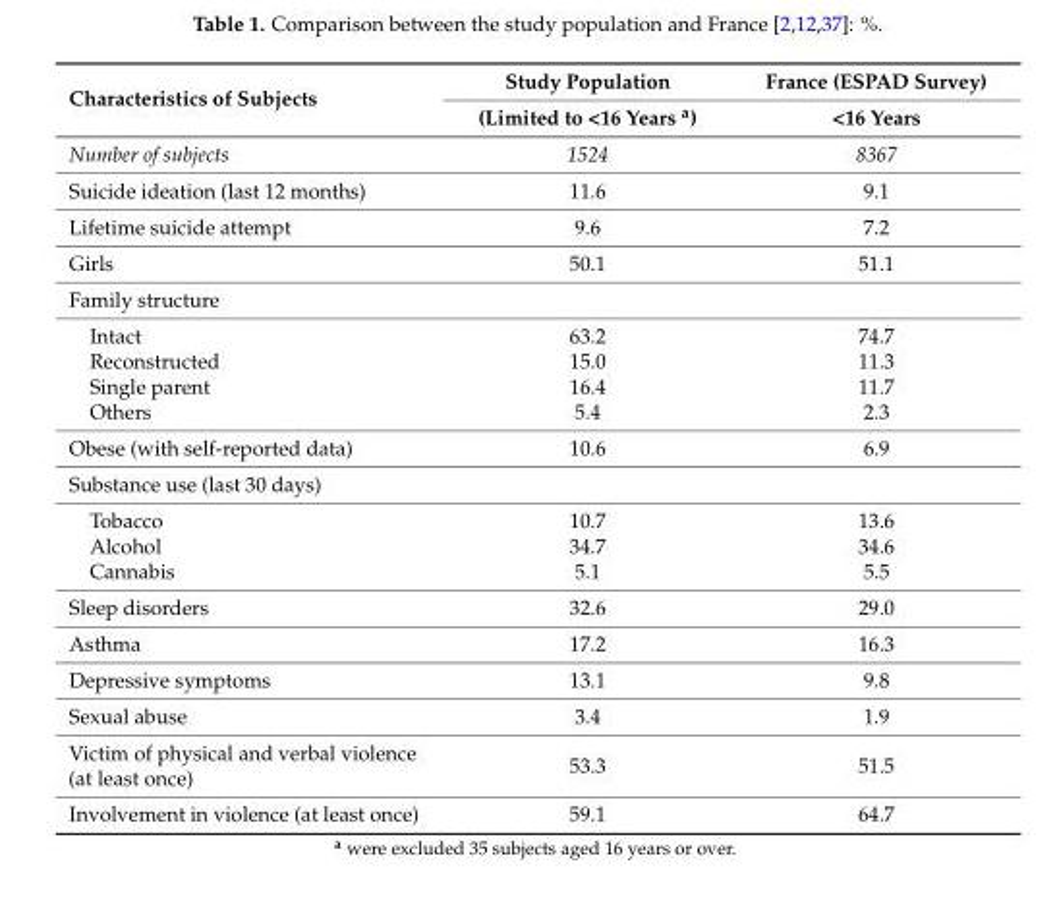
<table><thead><tr><td rowspan="2">Characteristics of Subjects</td><td rowspan="2">Study Population (Limited to &lt;16 Years <sup>a</sup>)</td><td rowspan="2">France (ESPAD Survey) &lt;16 Years</td></tr><tr></tr></thead><tbody><tr><td>Number of subjects</td><td>1524</td><td>8367</td></tr><tr><td>Suicide ideation (last 12 months)</td><td>11.6</td><td>9.1</td></tr><tr><td>Lifetime suicide attempt</td><td>9.6</td><td>7.2</td></tr><tr><td>Girls</td><td>50.1</td><td>51.1</td></tr><tr><td colspan="3">Family structure</td></tr><tr><td>Intact</td><td>63.2</td><td>74.7</td></tr><tr><td>Reconstructed</td><td>15.0</td><td>11.3</td></tr><tr><td>Single parent</td><td>16.4</td><td>11.7</td></tr><tr><td>Others</td><td>5.4</td><td>2.3</td></tr><tr><td>Obese (with self-reported data)</td><td>10.6</td><td>6.9</td></tr><tr><td colspan="3">Substance use (last 30 days)</td></tr><tr><td>Tobacco</td><td>10.7</td><td>13.6</td></tr><tr><td>Alcohol</td><td>34.7</td><td>34.6</td></tr><tr><td>Cannabis</td><td>5.1</td><td>5.5</td></tr><tr><td>Sleep disorders</td><td>32.6</td><td>29.0</td></tr><tr><td>Asthma</td><td>17.2</td><td>16.3</td></tr><tr><td>Depressive symptoms</td><td>13.1</td><td>9.8</td></tr><tr><td>Sexual abuse</td><td>3.4</td><td>1.9</td></tr><tr><td>Victim of physical and verbal violence (at least once)</td><td>53.3</td><td>51.5</td></tr><tr><td>Involvement in violence (at least once)</td><td>59.1</td><td>64.7</td></tr></tbody></table>